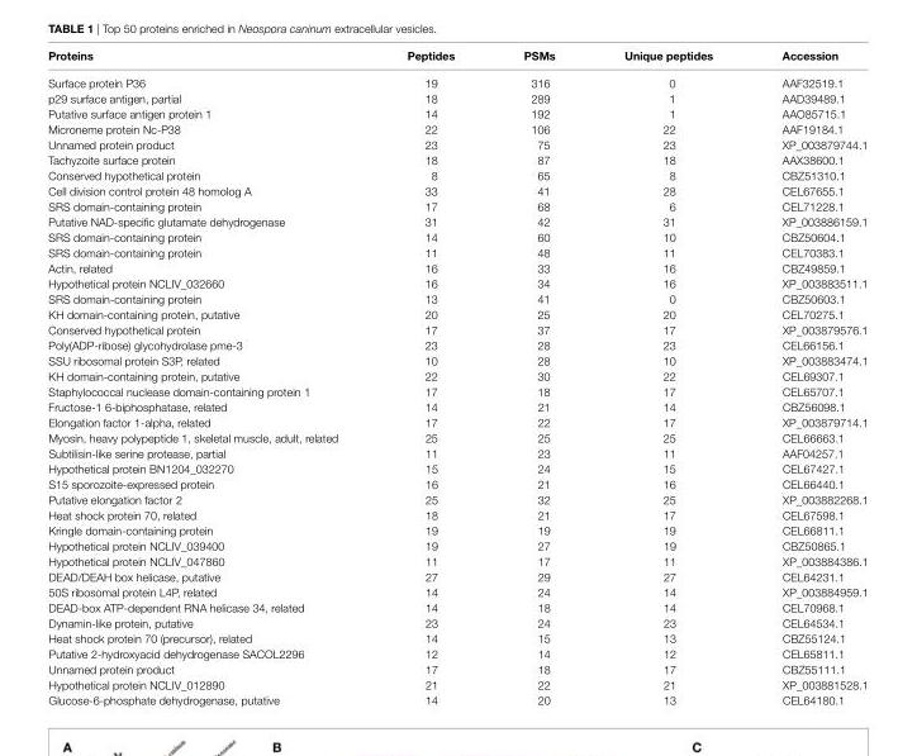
<table><thead><tr><td>Proteins</td><td>Peptides</td><td>PsMs</td><td>Unique peptides</td><td>accession</td></tr></thead><tbody><tr><td>Surface protein P36</td><td>19</td><td>316</td><td>0</td><td>AAF32519.1</td></tr><tr><td>p29 surface antigen, partial</td><td>18</td><td>289</td><td>1</td><td>AAD39489.1</td></tr><tr><td>Putative surface antigen protein 1</td><td>14</td><td>192</td><td>1</td><td>AAO85715.1</td></tr><tr><td>Microneme protein Nc-P38</td><td>22</td><td>106</td><td>22</td><td>AAF19184.1</td></tr><tr><td>Unnamed protein product</td><td>23</td><td>75</td><td>23</td><td>XP_003879744.1</td></tr><tr><td>Tachyzoite surface protein</td><td>18</td><td>87</td><td>18</td><td>AAX38600.1</td></tr><tr><td>Conserved hypothetical protein</td><td>8</td><td>65</td><td>8</td><td>CBZ51310.1</td></tr><tr><td>Cell division control protein 48 homolog A</td><td>33</td><td>41</td><td>28</td><td>CEL67655.1</td></tr><tr><td>SRS domain-containing protein</td><td>17</td><td>68</td><td>6</td><td>CEL71228.1</td></tr><tr><td>Putative NAD-specific glutamate dehydrogenase</td><td>31</td><td>42</td><td>31</td><td>XP_003886159.1</td></tr><tr><td>SRS domain-containing protein</td><td>14</td><td>60</td><td>10</td><td>CBZ50604.1</td></tr><tr><td>SRS domain-containing protein</td><td>11</td><td>48</td><td>11</td><td>CEL70383.1</td></tr><tr><td>Actin, related</td><td>16</td><td>33</td><td>16</td><td>CBZ49859.1</td></tr><tr><td>Hypothetical protein NCLIV_032660</td><td>16</td><td>34</td><td>16</td><td>XP_003883511.1</td></tr><tr><td>SRS domain-containing protein</td><td>13</td><td>41</td><td>0</td><td>CBZ50603.1</td></tr><tr><td>KH domain-containing protein, putative</td><td>20</td><td>25</td><td>20</td><td>CEL70275.1</td></tr><tr><td>Conserved hypothetical protein</td><td>17</td><td>37</td><td>17</td><td>XP_003879576.1</td></tr><tr><td>Poly(ADP-ribose) glycohydrolase pme-3</td><td>23</td><td>28</td><td>23</td><td>CEL66156.1</td></tr><tr><td>SSU ribosomal protein S3P, related</td><td>10</td><td>28</td><td>10</td><td>XP_003883474.1</td></tr><tr><td>KH domain-containing protein, putative</td><td>22</td><td>30</td><td>22</td><td>CEL69307.1</td></tr><tr><td>Staphylococcal nuclease domain-containing protein 1</td><td>17</td><td>18</td><td>17</td><td>CEL65707.1</td></tr><tr><td>Fructose-1 6-biphosphatase, related</td><td>14</td><td>21</td><td>14</td><td>CBZ56098.1</td></tr><tr><td>Elongation factor 1-alpha, related</td><td>17</td><td>22</td><td>17</td><td>XP_003879714.1</td></tr><tr><td>Myosin, heavy polypeptide 1, skeletal muscle, adult, related</td><td>25</td><td>25</td><td>25</td><td>CEL66663.1</td></tr><tr><td>Subtilisin-like serine protease, partial</td><td>11</td><td>23</td><td>11</td><td>AAF04257.1</td></tr><tr><td>Hypothetical protein BN1204_032270</td><td>15</td><td>24</td><td>15</td><td>CEL67427.1</td></tr><tr><td>S15 sporozoite-expressed protein</td><td>16</td><td>21</td><td>16</td><td>CEL66440.1</td></tr><tr><td>Putative elongation factor 2</td><td>25</td><td>32</td><td>25</td><td>XP_003882268.1</td></tr><tr><td>Heat shock protein 70, related</td><td>18</td><td>21</td><td>17</td><td>CEL67598.1</td></tr><tr><td>Kringle domain-containing protein</td><td>19</td><td>19</td><td>19</td><td>CEL66811.1</td></tr><tr><td>Hypothetical protein NCLIV_039400</td><td>19</td><td>27</td><td>19</td><td>CBZ50865.1</td></tr><tr><td>Hypothetical protein NCLIV_047860</td><td>11</td><td>17</td><td>11</td><td>XP_003884386.1</td></tr><tr><td>DEAD/DEAH box helicase, putative</td><td>27</td><td>29</td><td>27</td><td>CEL64231.1</td></tr><tr><td>50S ribosomal protein L4P, related</td><td>14</td><td>24</td><td>14</td><td>XP_003884959.1</td></tr><tr><td>DEAD-box ATP-dependent RNA helicase 34, related</td><td>14</td><td>18</td><td>14</td><td>CEL70968.1</td></tr><tr><td>Dynamin-like protein, putative</td><td>23</td><td>24</td><td>23</td><td>CEL64534.1</td></tr><tr><td>Heat shock protein 70 (precursor), related</td><td>14</td><td>15</td><td>13</td><td>CBZ55124.1</td></tr><tr><td>Putative 2-hydroxyacid dehydrogenase SACOL2296</td><td>12</td><td>14</td><td>12</td><td>CEL65811.1</td></tr><tr><td>Unnamed protein product</td><td>17</td><td>18</td><td>17</td><td>CBZ55111.1</td></tr><tr><td>Hypothetical protein NCLIV_012890</td><td>21</td><td>22</td><td>21</td><td>XP_003881528.1</td></tr><tr><td>Glucose-6-phosphate dehydrogenase, putative</td><td>14</td><td>20</td><td>13</td><td>CEL64180.1</td></tr></tbody></table>